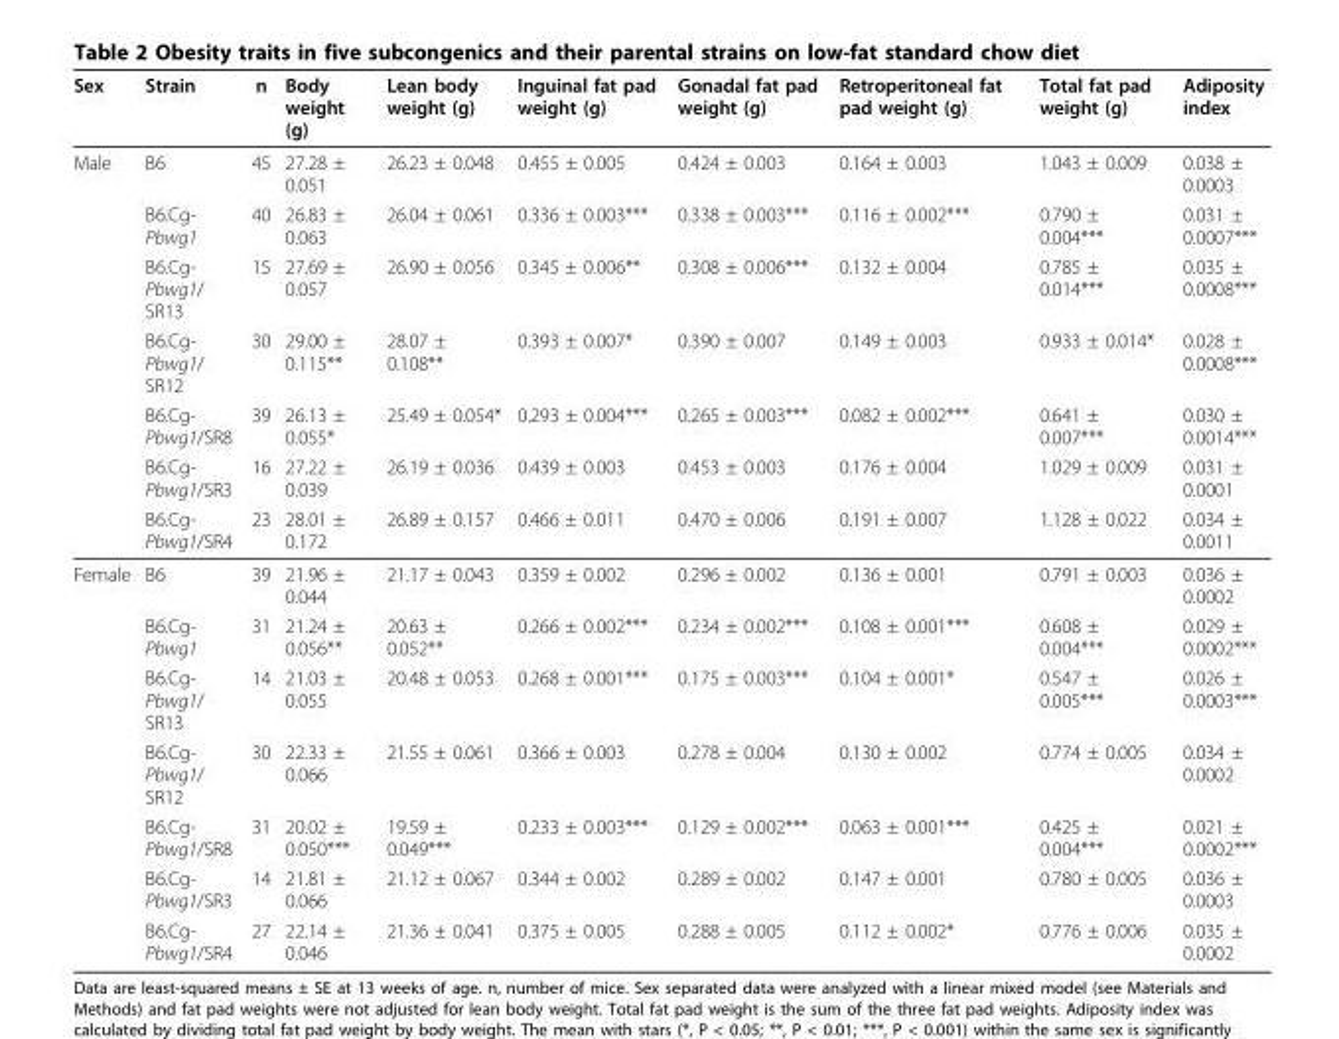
<table><thead><tr><td>Sex</td><td>Strain</td><td>n</td><td>Body weight (g)</td><td>Lean body weight (g)</td><td>Inguinal fat pad weight (g)</td><td>Gonadal fat pad weight (g)</td><td>Retroperitoneal fat pad weight (g)</td><td>Total fat pad weight (g)</td><td>Adiposity index</td></tr></thead><tbody><tr><td rowspan="7">Male</td><td>B6</td><td>45</td><td>27.28 ± 0.051</td><td>26.23 ± 0.048</td><td>0.455 ± 0.005</td><td>0.424 ± 0.003</td><td>0.164 ± 0.003</td><td>1.043 ± 0.009</td><td>0.038 ± 0.0003</td></tr><tr><td>B6.Cg- Pbwg1</td><td>40</td><td>26.83 ± 0.063</td><td>26.04 ± 0.061</td><td>0.336 ± 0.003***</td><td>0.338 ± 0.003***</td><td>0.116 ± 0.002***</td><td>0.790 ± 0.004***</td><td>0.031 ± 0.0007***</td></tr><tr><td>B6.Cg- Pbwg1/ SR13</td><td>15</td><td>27.69 ± 0.057</td><td>26.90 ± 0.056</td><td>0.345 ± 0.006**</td><td>0.308 ± 0.006***</td><td>0.132 ± 0.004</td><td>0.785 ± 0.014***</td><td>0.035 ± 0.0008***</td></tr><tr><td>B6.Cg- Pbwg1/ SR12</td><td>30</td><td>29.00 ± 0.115**</td><td>28.07 ± 0.108**</td><td>0.393 ± 0.007*</td><td>0.390 ± 0.007</td><td>0.149 ± 0.003</td><td>0.933 ± 0.014*</td><td>0.028 ± 0.0008***</td></tr><tr><td>B6.Cg- Pbwg1/SR8</td><td>39</td><td>26.13 ± 0.055*</td><td>25.49 ± 0.054*</td><td>0.293 ± 0.004***</td><td>0.265 ± 0.003***</td><td>0.082 ± 0.002***</td><td>0.641 ± 0.007***</td><td>0.030 ± 0.0014***</td></tr><tr><td>B6.Cg- Pbwg1/SR3</td><td>16</td><td>27.22 ± 0.039</td><td>26.19 ± 0.036</td><td>0.439 ± 0.003</td><td>0.453 ± 0.003</td><td>0.176 ± 0.004</td><td>1.029 ± 0.009</td><td>0.031 ± 0.0001</td></tr><tr><td>B6.Cg- Pbwg1/SR4</td><td>23</td><td>28.01 ± 0.172</td><td>26.89 ± 0.157</td><td>0.466 ± 0.011</td><td>0.470 ± 0.006</td><td>0.191 ± 0.007</td><td>1.128 ± 0.022</td><td>0.034 ± 0.0011</td></tr><tr><td rowspan="7">Female</td><td>B6</td><td>39</td><td>21.96 ± 0.044</td><td>21.17 ± 0.043</td><td>0.359 ± 0.002</td><td>0.296 ± 0.002</td><td>0.136 ± 0.001</td><td>0.791 ± 0.003</td><td>0.036 ± 0.0002</td></tr><tr><td>B6.Cg- Pbwg1</td><td>31</td><td>21.24 ± 0.056**</td><td>20.63 ± 0.052**</td><td>0.266 ± 0.002***</td><td>0.234 ± 0.002***</td><td>0.108 ± 0.001***</td><td>0.608 ± 0.004***</td><td>0.029 ± 0.0002***</td></tr><tr><td>B6.Cg- Pbwg1/ SR13</td><td>14</td><td>21.03 ± 0.055</td><td>20.48 ± 0.053</td><td>0.268 ± 0.001***</td><td>0.175 ± 0.003***</td><td>0.104 ± 0.001*</td><td>0.547 ± 0.005***</td><td>0.026 ± 0.0003***</td></tr><tr><td>B6.Cg- Pbwg1/ SR12</td><td>30</td><td>22.33 ± 0.066</td><td>21.55 ± 0.061</td><td>0.366 ± 0.003</td><td>0.278 ± 0.004</td><td>0.130 ± 0.002</td><td>0.774 ± 0.005</td><td>0.034 ± 0.0002</td></tr><tr><td>B6.Cg- Pbwg1/SR8</td><td>31</td><td>20.02 ± 0.050***</td><td>19.59 ± 0.049***</td><td>0.233 ± 0.003***</td><td>0.129 ± 0.002***</td><td>0.063 ± 0.001***</td><td>0.425 ± 0.004***</td><td>0.021 ± 0.0002***</td></tr><tr><td>B6.Cg- Pbwg1/SR3</td><td>14</td><td>21.81 ± 0.066</td><td>21.12 ± 0.067</td><td>0.344 ± 0.002</td><td>0.289 ± 0.002</td><td>0.147 ± 0.001</td><td>0.780 ± 0.005</td><td>0.036 ± 0.0003</td></tr><tr><td>B6.Cg- Pbwg1/SR4</td><td>27</td><td>22.14 ± 0.046</td><td>21.36 ± 0.041</td><td>0.375 ± 0.005</td><td>0.288 ± 0.005</td><td>0.112 ± 0.002*</td><td>0.776 ± 0.006</td><td>0.035 ± 0.0002</td></tr></tbody></table>